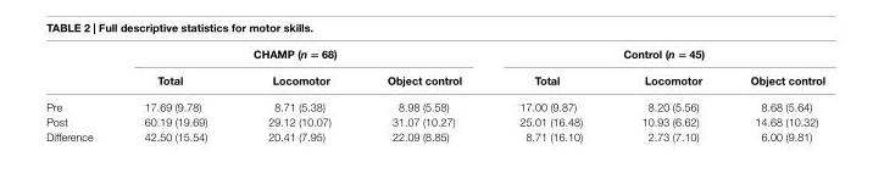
<table><thead><tr><td rowspan="2"></td><td colspan="3">chaMP (n = 68)</td><td colspan="3">control (n = 45)</td></tr><tr><td>Total</td><td>locomotor</td><td>Object control</td><td>Total</td><td>locomotor</td><td>Object control</td></tr></thead><tbody><tr><td>Pre</td><td>17.69 (9.78)</td><td>8.71 (5.38)</td><td>8.98 (5.58)</td><td>17.00 (9.87)</td><td>8.20 (5.56)</td><td>8.68 (5.64)</td></tr><tr><td>Post</td><td>60.19 (19.69)</td><td>29.12 (10.07)</td><td>31.07 (10.27)</td><td>25.01 (16.48)</td><td>10.93 (6.62)</td><td>14.68 (10.32)</td></tr><tr><td>Difference</td><td>42.50 (15.54)</td><td>20.41 (7.95)</td><td>22.09 (8.85)</td><td>8.71 (16.10)</td><td>2.73 (7.10)</td><td>6.00 (9.81)</td></tr></tbody></table>